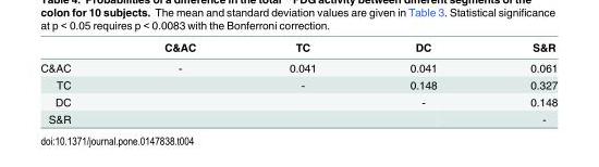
<table><thead><tr><td></td><td>C&amp;AC</td><td>TC</td><td>DC</td><td>S&amp;R</td></tr></thead><tbody><tr><td>C&amp;AC</td><td>-</td><td>0.041</td><td>0.041</td><td>0.061</td></tr><tr><td>TC</td><td></td><td>-</td><td>0.148</td><td>0.327</td></tr><tr><td>DC</td><td></td><td></td><td>-</td><td>0.148</td></tr><tr><td>S&amp;R</td><td></td><td></td><td></td><td>-</td></tr></tbody></table>